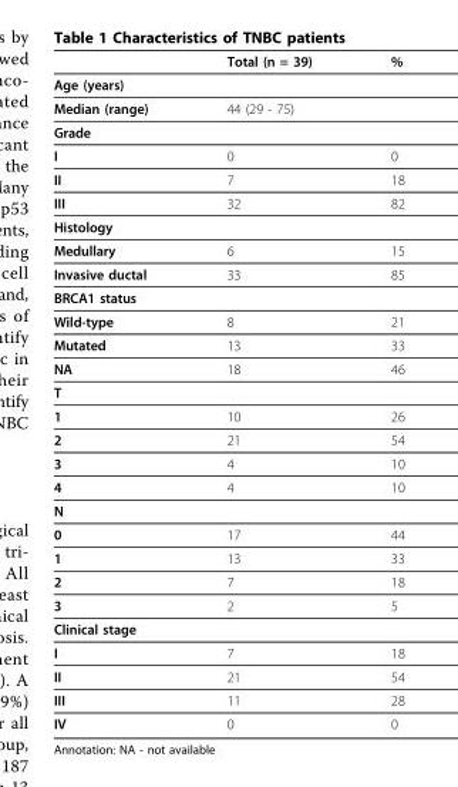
<table><thead><tr><td></td><td>Total (n = 39)</td><td>%</td></tr></thead><tbody><tr><td colspan="3">Age (years)</td></tr><tr><td>Median (range)</td><td>44 (29 - 75)</td><td></td></tr><tr><td colspan="3">Grade</td></tr><tr><td>I</td><td>0</td><td>0</td></tr><tr><td>II</td><td>7</td><td>18</td></tr><tr><td>III</td><td>32</td><td>82</td></tr><tr><td colspan="3">Histology</td></tr><tr><td>Medullary</td><td>6</td><td>15</td></tr><tr><td>Invasive ductal</td><td>33</td><td>85</td></tr><tr><td colspan="3">BRCA1 status</td></tr><tr><td>Wild-type</td><td>8</td><td>21</td></tr><tr><td>Mutated</td><td>13</td><td>33</td></tr><tr><td>NA</td><td>18</td><td>46</td></tr><tr><td colspan="3">T</td></tr><tr><td>1</td><td>10</td><td>26</td></tr><tr><td>2</td><td>21</td><td>54</td></tr><tr><td>3</td><td>4</td><td>10</td></tr><tr><td>4</td><td>4</td><td>10</td></tr><tr><td colspan="3">N</td></tr><tr><td>0</td><td>17</td><td>44</td></tr><tr><td>1</td><td>13</td><td>33</td></tr><tr><td>2</td><td>7</td><td>18</td></tr><tr><td>3</td><td>2</td><td>5</td></tr><tr><td colspan="3">Clinical stage</td></tr><tr><td>I</td><td>7</td><td>18</td></tr><tr><td>II</td><td>21</td><td>54</td></tr><tr><td>III</td><td>11</td><td>28</td></tr><tr><td>IV</td><td>0</td><td>0</td></tr></tbody></table>